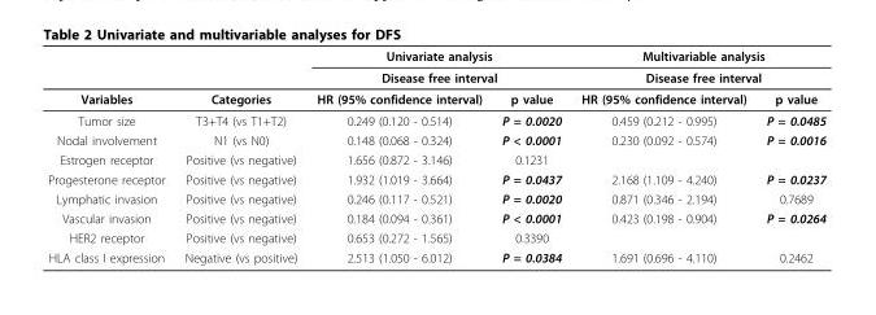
<table><thead><tr><td rowspan="3">Variables</td><td rowspan="3">Categories</td><td rowspan="2" colspan="2">Univariate analysis Disease free interval</td><td rowspan="2" colspan="2">Multivariable analysis Disease free interval</td></tr><tr></tr><tr><td>HR (95% confidence interval)</td><td>p value</td><td>HR (95% confidence interval)</td><td>p value</td></tr></thead><tbody><tr><td>Tumor size</td><td>T3+T4 (vs T1+T2)</td><td>0.249 (0.120 - 0.514)</td><td>P = 0.0020</td><td>0.459 (0.212 - 0.995)</td><td>P = 0.0485</td></tr><tr><td>Nodal involvement</td><td>N1 (vs N0)</td><td>0.148 (0.068 - 0.324)</td><td>P &lt; 0.0001</td><td>0.230 (0.092 - 0.574)</td><td>P = 0.0016</td></tr><tr><td>Estrogen receptor</td><td>Positive (vs negative)</td><td>1.656 (0.872 - 3.146)</td><td>0.1231</td><td></td><td></td></tr><tr><td>Progesterone receptor</td><td>Positive (vs negative)</td><td>1.932 (1.019 - 3.664)</td><td>P = 0.0437</td><td>2.168 (1.109 - 4.240)</td><td>P = 0.0237</td></tr><tr><td>Lymphatic invasion</td><td>Positive (vs negative)</td><td>0.246 (0.117 - 0.521)</td><td>P = 0.0020</td><td>0.871 (0.346 - 2.194)</td><td>0.7689</td></tr><tr><td>Vascular invasion</td><td>Positive (vs negative)</td><td>0.184 (0.094 - 0.361)</td><td>P &lt; 0.0001</td><td>0.423 (0.198 - 0.904)</td><td>P = 0.0264</td></tr><tr><td>HER2 receptor</td><td>Positive (vs negative)</td><td>0.653 (0.272 - 1.565)</td><td>0.3390</td><td></td><td></td></tr><tr><td>HLA class I expression</td><td>Negative (vs positive)</td><td>2.513 (1.050 - 6.012)</td><td>P = 0.0384</td><td>1.691 (0.696 - 4.110)</td><td>0.2462</td></tr></tbody></table>